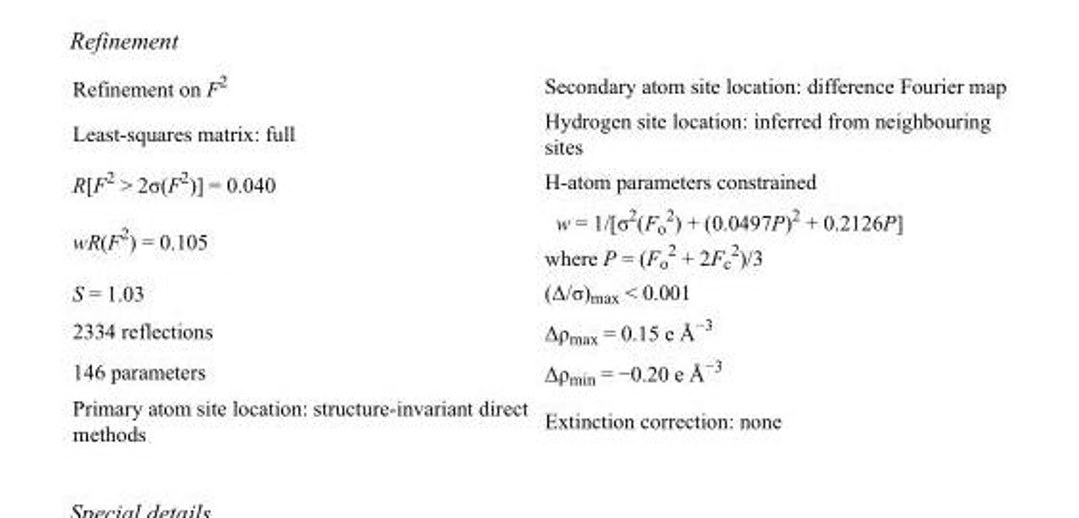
<table><tbody><tr><td>Refinement on F<sup>2</sup></td><td>Secondary atom site location: difference Fourier map</td></tr><tr><td>Least-squares matrix: full</td><td>Hydrogen site location: inferred from neighbouring sites</td></tr><tr><td>R[F<sup>2</sup> &gt; 2σ(F<sup>2</sup>)] = 0.040</td><td>H-atom parameters constrained</td></tr><tr><td>wR(F<sup>2</sup>) = 0.105</td><td>w = 1/[σ<sup>2</sup>(F<sub>o</sub> <sup>2</sup>) + (0.0497P)<sup>2</sup> + 0.2126P] where P = (F<sub>o</sub> <sup>2</sup> + 2F<sub>c</sub> <sup>2</sup>)/3</td></tr><tr><td>S = 1.03</td><td>(Δ/σ)<sub>max</sub> &lt; 0.001</td></tr><tr><td>2334 reflections</td><td>Δρ<sub>max</sub> = 0.15 e Å<sup>−3</sup></td></tr><tr><td>146 parameters</td><td>Δρ<sub>min</sub> = −0.20 e Å<sup>−3</sup></td></tr><tr><td>Primary atom site location: structure-invariant direct methods</td><td>Extinction correction: none</td></tr></tbody></table>